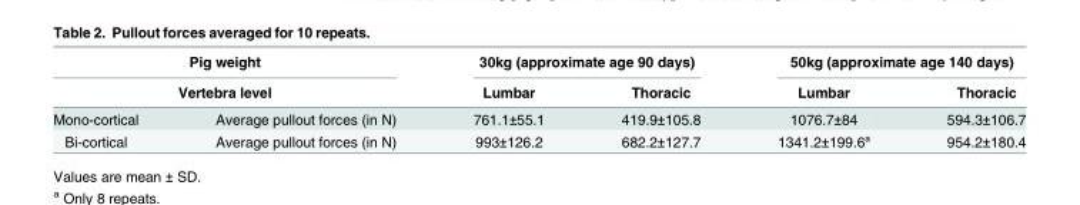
<table><thead><tr><td rowspan="2" colspan="2">Pig weight Vertebra level</td><td colspan="2">30kg (approximate age 90 days)</td><td colspan="2">50kg (approximate age 140 days)</td></tr><tr><td rowspan="2">Lumbar 761.1±55.1</td><td rowspan="2">Thoracic 419.9±105.8</td><td rowspan="2">Lumbar 1076.7±84</td><td rowspan="2">Thoracic 594.3±106.7</td></tr><tr><td>Mono-cortical</td><td>Average pullout forces (in N)</td></tr></thead><tbody><tr><td>Bi-cortical</td><td>Average pullout forces (in N)</td><td>993±126.2</td><td>682.2±127.7</td><td>1341.2±199.6ª</td><td>954.2±180.4</td></tr></tbody></table>